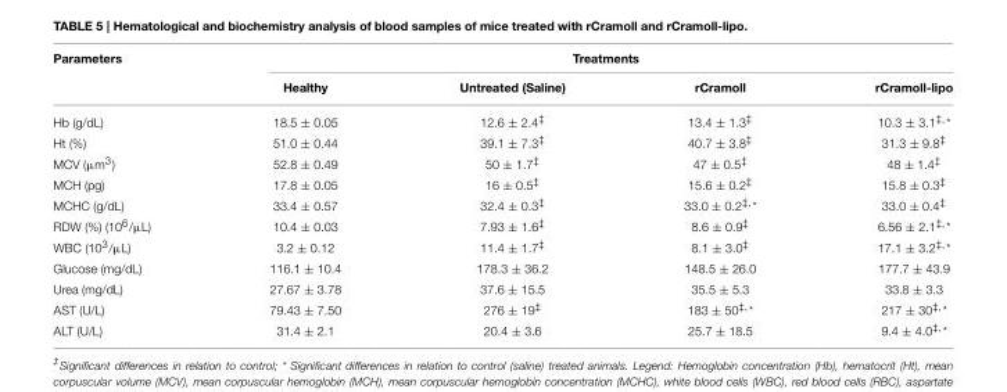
<table><thead><tr><td rowspan="2">Parameters</td><td colspan="4">Treatments</td></tr><tr><td>Healthy</td><td>Untreated (Saline)</td><td>rCramoll</td><td>rCramoll-lipo</td></tr></thead><tbody><tr><td>Hb (g/dL)</td><td>18.5 ± 0.05</td><td>12.6 ± 2.4<sup>‡</sup></td><td>13.4 ± 1.3<sup>‡</sup></td><td>10.3 ± 3.1<sup>‡</sup>,*</td></tr><tr><td>Ht (%)</td><td>51.0 ± 0.44</td><td>39.1 ± 7.3<sup>‡</sup></td><td>40.7 ± 3.8<sup>‡</sup></td><td>31.3 ± 9.8<sup>‡</sup></td></tr><tr><td>MCV (µm<sup>3</sup>)</td><td>52.8 ± 0.49</td><td>50 ± 1.7<sup>‡</sup></td><td>47 ± 0.5<sup>‡</sup></td><td>48 ± 1.4<sup>‡</sup></td></tr><tr><td>MCH (pg)</td><td>17.8 ± 0.05</td><td>16 ± 0.5<sup>‡</sup></td><td>15.6 ± 0.2<sup>‡</sup></td><td>15.8 ± 0.3<sup>‡</sup></td></tr><tr><td>MCHC (g/dL)</td><td>33.4 ± 0.57</td><td>32.4 ± 0.3<sup>‡</sup></td><td>33.0 ± 0.2<sup>‡</sup>,*</td><td>33.0 ± 0.4<sup>‡</sup></td></tr><tr><td>RDW (%) (10<sup>6</sup>/µL)</td><td>10.4 ± 0.03</td><td>7.93 ± 1.6<sup>‡</sup></td><td>8.6 ± 0.9<sup>‡</sup></td><td>6.56 ± 2.1<sup>‡</sup>,*</td></tr><tr><td>WBC (10<sup>3</sup>/µL)</td><td>3.2 ± 0.12</td><td>11.4 ± 1.7<sup>‡</sup></td><td>8.1 ± 3.0<sup>‡</sup></td><td>17.1 ± 3.2<sup>‡</sup>,*</td></tr><tr><td>Glucose (mg/dL)</td><td>116.1 ± 10.4</td><td>178.3 ± 36.2</td><td>148.5 ± 26.0</td><td>177.7 ± 43.9</td></tr><tr><td>Urea (mg/dL)</td><td>27.67 ± 3.78</td><td>37.6 ± 15.5</td><td>35.5 ± 5.3</td><td>33.8 ± 3.3</td></tr><tr><td>AST (U/L)</td><td>79.43 ± 7.50</td><td>276 ± 19<sup>‡</sup></td><td>183 ± 50<sup>‡</sup>,*</td><td>217 ± 30<sup>‡</sup>,*</td></tr><tr><td>ALT (U/L)</td><td>31.4 ± 2.1</td><td>20.4 ± 3.6</td><td>25.7 ± 18.5</td><td>9.4 ± 4.0<sup>‡</sup>,*</td></tr></tbody></table>